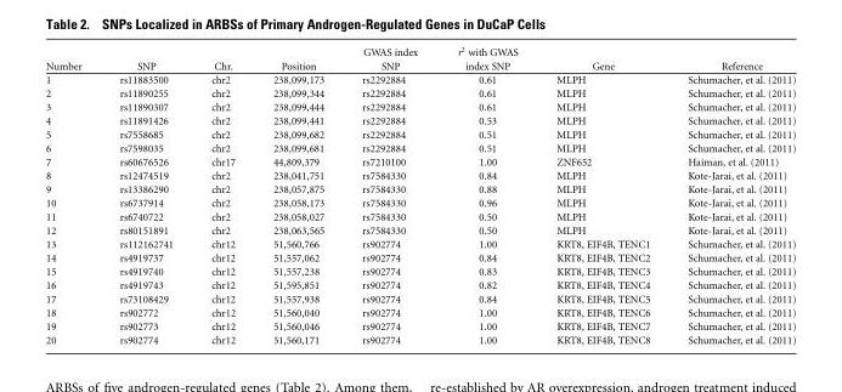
<table><thead><tr><td>Number</td><td>SNP</td><td>Chr.</td><td>Position</td><td>GWAS index SNP</td><td>r<sup>2</sup> with GWAS index SNP</td><td>Gene</td><td>Reference</td></tr></thead><tbody><tr><td>1</td><td>rs11883500</td><td>chr2</td><td>238,099,173</td><td>rs2292884</td><td>0.61</td><td>MLPH</td><td>Schumacher, et al. (2011)</td></tr><tr><td>2</td><td>rs11890255</td><td>chr2</td><td>238,099,344</td><td>rs2292884</td><td>0.61</td><td>MLPH</td><td>Schumacher, et al. (2011)</td></tr><tr><td>3</td><td>rs11890307</td><td>chr2</td><td>238,099,444</td><td>rs2292884</td><td>0.61</td><td>MLPH</td><td>Schumacher, et al. (2011)</td></tr><tr><td>4</td><td>rs11891426</td><td>chr2</td><td>238,099,441</td><td>rs2292884</td><td>0.53</td><td>MLPH</td><td>Schumacher, et al. (2011)</td></tr><tr><td>5</td><td>rs7558685</td><td>chr2</td><td>238,099,682</td><td>rs2292884</td><td>0.51</td><td>MLPH</td><td>Schumacher, et al. (2011)</td></tr><tr><td>6</td><td>rs7598035</td><td>chr2</td><td>238,099,681</td><td>rs2292884</td><td>0.51</td><td>MLPH</td><td>Schumacher, et al. (2011)</td></tr><tr><td>7</td><td>rs60676526</td><td>chr17</td><td>44,809,379</td><td>rs7210100</td><td>1.00</td><td>ZNF652</td><td>Haiman, et al. (2011)</td></tr><tr><td>8</td><td>rs12474519</td><td>chr2</td><td>238,041,751</td><td>rs7584330</td><td>0.84</td><td>MLPH</td><td>Kote-Jarai, et al. (2011)</td></tr><tr><td>9</td><td>rs13386290</td><td>chr2</td><td>238,057,875</td><td>rs7584330</td><td>0.88</td><td>MLPH</td><td>Kote-Jarai, et al. (2011)</td></tr><tr><td>10</td><td>rs6737914</td><td>chr2</td><td>238,058,173</td><td>rs7584330</td><td>0.96</td><td>MLPH</td><td>Kote-Jarai, et al. (2011)</td></tr><tr><td>11</td><td>rs6740722</td><td>chr2</td><td>238,058,027</td><td>rs7584330</td><td>0.50</td><td>MLPH</td><td>Kote-Jarai, et al. (2011)</td></tr><tr><td>12</td><td>rs80151891</td><td>chr2</td><td>238,063,565</td><td>rs7584330</td><td>0.50</td><td>MLPH</td><td>Kote-Jarai, et al. (2011)</td></tr><tr><td>13</td><td>rs112162741</td><td>chr12</td><td>51,560,766</td><td>rs902774</td><td>1.00</td><td>KRT8, EIF4B, TENC1</td><td>Schumacher, et al. (2011)</td></tr><tr><td>14</td><td>rs4919737</td><td>chr12</td><td>51,557,062</td><td>rs902774</td><td>0.84</td><td>KRT8, EIF4B, TENC2</td><td>Schumacher, et al. (2011)</td></tr><tr><td>15</td><td>rs4919740</td><td>chr12</td><td>51,557,238</td><td>rs902774</td><td>0.83</td><td>KRT8, EIF4B, TENC3</td><td>Schumacher, et al. (2011)</td></tr><tr><td>16</td><td>rs4919743</td><td>chr12</td><td>51,595,851</td><td>rs902774</td><td>0.82</td><td>KRT8, EIF4B, TENC4</td><td>Schumacher, et al. (2011)</td></tr><tr><td>17</td><td>rs73108429</td><td>chr12</td><td>51,557,938</td><td>rs902774</td><td>0.84</td><td>KRT8, EIF4B, TENC5</td><td>Schumacher, et al. (2011)</td></tr><tr><td>18</td><td>rs902772</td><td>chr12</td><td>51,560,040</td><td>rs902774</td><td>1.00</td><td>KRT8, EIF4B, TENC6</td><td>Schumacher, et al. (2011)</td></tr><tr><td>19</td><td>rs902773</td><td>chr12</td><td>51,560,046</td><td>rs902774</td><td>1.00</td><td>KRT8, EIF4B, TENC7</td><td>Schumacher, et al. (2011)</td></tr><tr><td>20</td><td>rs902774</td><td>chr12</td><td>51,560,171</td><td>rs902774</td><td>1.00</td><td>KRT8, EIF4B, TENC8</td><td>Schumacher, et al. (2011)</td></tr></tbody></table>